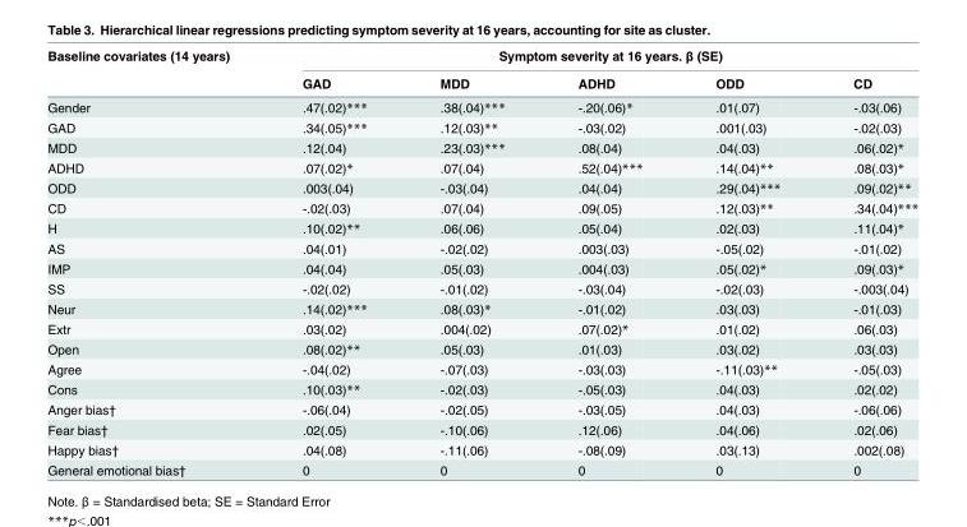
<table><thead><tr><td rowspan="2">Baseline covariates (14 years)</td><td colspan="5">Symptom severity at 16 years. β (SE)</td></tr><tr><td>GAD</td><td>MDD</td><td>ADHD</td><td>ODD</td><td>CD</td></tr></thead><tbody><tr><td>Gender</td><td>.47(.02)***</td><td>.38(.04)***</td><td>-.20(.06)*</td><td>.01(.07)</td><td>-.03(.06)</td></tr><tr><td>GAD</td><td>.34(.05)***</td><td>.12(.03)**</td><td>-.03(.02)</td><td>.001(.03)</td><td>-.02(.03)</td></tr><tr><td>MDD</td><td>.12(.04)</td><td>.23(.03)***</td><td>.08(.04)</td><td>.04(.03)</td><td>.06(.02)*</td></tr><tr><td>ADHD</td><td>.07(.02)*</td><td>.07(.04)</td><td>.52(.04)***</td><td>.14(.04)**</td><td>.08(.03)*</td></tr><tr><td>ODD</td><td>.003(.04)</td><td>-.03(.04)</td><td>.04(.04)</td><td>.29(.04)***</td><td>.09(.02)**</td></tr><tr><td>CD</td><td>-.02(.03)</td><td>.07(.04)</td><td>.09(.05)</td><td>.12(.03)**</td><td>.34(.04)***</td></tr><tr><td>H</td><td>.10(.02)**</td><td>.06(.06)</td><td>.05(.04)</td><td>.02(.03)</td><td>.11(.04)*</td></tr><tr><td>AS</td><td>.04(.01)</td><td>-.02(.02)</td><td>.003(.03)</td><td>-.05(.02)</td><td>-.01(.02)</td></tr><tr><td>IMP</td><td>.04(.04)</td><td>.05(.03)</td><td>.004(.03)</td><td>.05(.02)*</td><td>.09(.03)*</td></tr><tr><td>SS</td><td>-.02(.02)</td><td>-.01(.02)</td><td>-.03(.04)</td><td>-.02(.03)</td><td>-.003(.04)</td></tr><tr><td>Neur</td><td>.14(.02)***</td><td>.08(.03)*</td><td>-.01(.02)</td><td>.03(.03)</td><td>-.01(.03)</td></tr><tr><td>Extr</td><td>.03(.02)</td><td>.004(.02)</td><td>.07(.02)*</td><td>.01(.02)</td><td>.06(.03)</td></tr><tr><td>Open</td><td>.08(.02)**</td><td>.05(.03)</td><td>.01(.03)</td><td>.03(.02)</td><td>.03(.03)</td></tr><tr><td>Agree</td><td>-.04(.02)</td><td>-.07(.03)</td><td>-.03(.03)</td><td>-.11(.03)**</td><td>-.05(.03)</td></tr><tr><td>Cons</td><td>.10(.03)**</td><td>-.02(.03)</td><td>-.05(.03)</td><td>.04(.03)</td><td>.02(.02)</td></tr><tr><td>Anger bias†</td><td>-.06(.04)</td><td>-.02(.05)</td><td>-.03(.05)</td><td>.04(.03)</td><td>-.06(.06)</td></tr><tr><td>Fear bias†</td><td>.02(.05)</td><td>-.10(.06)</td><td>.12(.06)</td><td>.04(.06)</td><td>.02(.06)</td></tr><tr><td>Happy bias†</td><td>.04(.08)</td><td>-.11(.06)</td><td>-.08(.09)</td><td>.03(.13)</td><td>.002(.08)</td></tr><tr><td>General emotional bias†</td><td>0</td><td>0</td><td>0</td><td>0</td><td>0</td></tr></tbody></table>